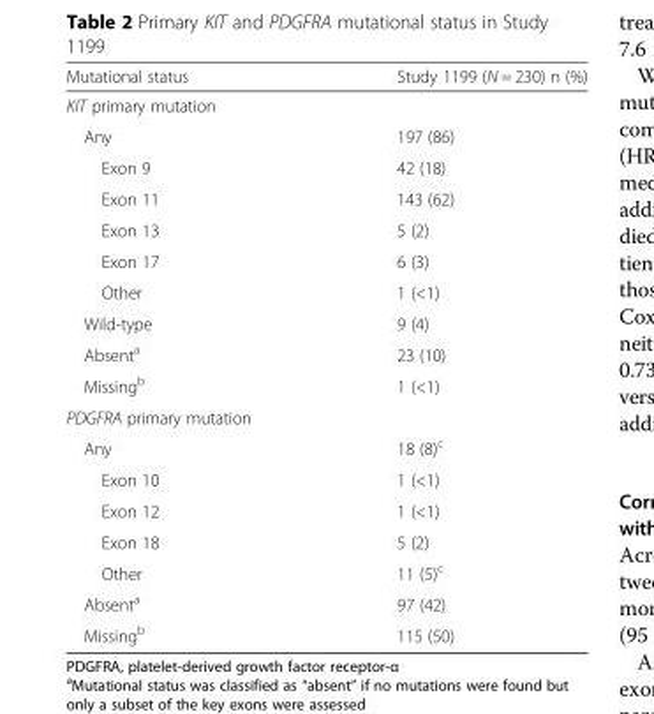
<table><thead><tr><td>Mutational status</td><td>Study 1199 (N = 230) n (%)</td></tr></thead><tbody><tr><td colspan="2">KIT primary mutation</td></tr><tr><td>Any</td><td>197 (86)</td></tr><tr><td>Exon 9</td><td>42 (18)</td></tr><tr><td>Exon 11</td><td>143 (62)</td></tr><tr><td>Exon 13</td><td>5 (2)</td></tr><tr><td>Exon 17</td><td>6 (3)</td></tr><tr><td>Other</td><td>1 (&lt;1)</td></tr><tr><td>Wild-type</td><td>9 (4)</td></tr><tr><td>Absent<sup>a</sup></td><td>23 (10)</td></tr><tr><td>Missing<sup>b</sup></td><td>1 (&lt;1)</td></tr><tr><td colspan="2">PDGFRA primary mutation</td></tr><tr><td>Any</td><td>18 (8)<sup>c</sup></td></tr><tr><td>Exon 10</td><td>1 (&lt;1)</td></tr><tr><td>Exon 12</td><td>1 (&lt;1)</td></tr><tr><td>Exon 18</td><td>5 (2)</td></tr><tr><td>Other</td><td>11 (5)<sup>c</sup></td></tr><tr><td>Absent<sup>a</sup></td><td>97 (42)</td></tr><tr><td>Missing<sup>b</sup></td><td>115 (50)</td></tr></tbody></table>